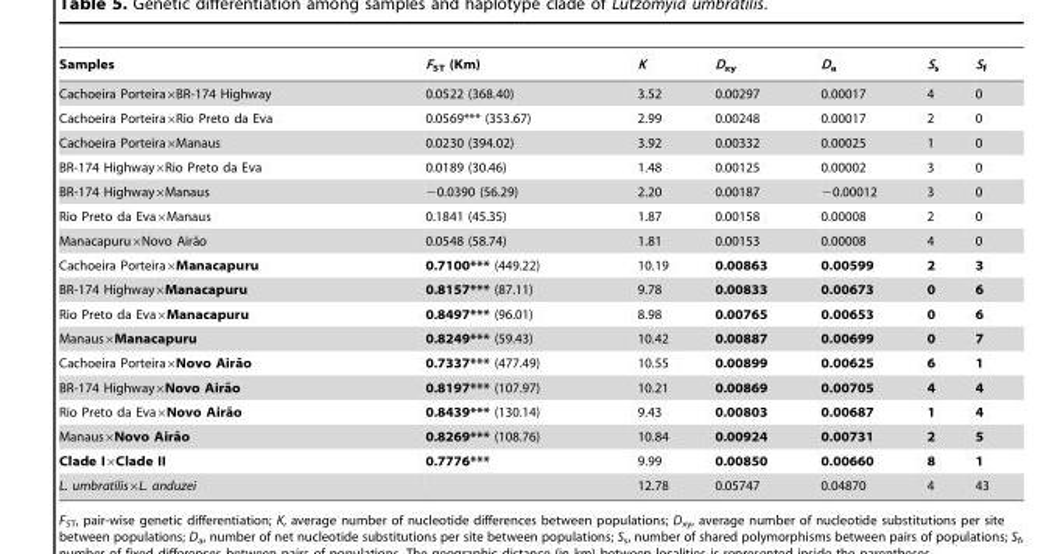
<table><thead><tr><td>Samples</td><td>F<sub>ST</sub> (Km)</td><td>K</td><td>D<sub>xy</sub></td><td>D<sub>a</sub></td><td>S<sub>s</sub></td><td>S<sub>f</sub></td></tr></thead><tbody><tr><td>Cachoeira Porteira×BR-174 Highway</td><td>0.0522 (368.40)</td><td>3.52</td><td>0.00297</td><td>0.00017</td><td>4</td><td>0</td></tr><tr><td>Cachoeira Porteira×Rio Preto da Eva</td><td>0.0569*** (353.67)</td><td>2.99</td><td>0.00248</td><td>0.00017</td><td>2</td><td>0</td></tr><tr><td>Cachoeira Porteira×Manaus</td><td>0.0230 (394.02)</td><td>3.92</td><td>0.00332</td><td>0.00025</td><td>1</td><td>0</td></tr><tr><td>BR-174 Highway×Rio Preto da Eva</td><td>0.0189 (30.46)</td><td>1.48</td><td>0.00125</td><td>0.00002</td><td>3</td><td>0</td></tr><tr><td>BR-174 Highway×Manaus</td><td>−0.0390 (56.29)</td><td>2.20</td><td>0.00187</td><td>−0.00012</td><td>3</td><td>0</td></tr><tr><td>Rio Preto da Eva×Manaus</td><td>0.1841 (45.35)</td><td>1.87</td><td>0.00158</td><td>0.00008</td><td>2</td><td>0</td></tr><tr><td>Manacapuru6Novo Aira˜o</td><td>0.0548 (58.74)</td><td>1.81</td><td>0.00153</td><td>0.00008</td><td>4</td><td>0</td></tr><tr><td>Cachoeira Porteira×Manacapuru</td><td>0.7100*** (449.22)</td><td>10.19</td><td>0.00863</td><td>0.00599</td><td>2</td><td>3</td></tr><tr><td>BR-174 Highway×Manacapuru</td><td>0.8157*** (87.11)</td><td>9.78</td><td>0.00833</td><td>0.00673</td><td>0</td><td>6</td></tr><tr><td>Rio Preto da Eva×Manacapuru</td><td>0.8497*** (96.01)</td><td>8.98</td><td>0.00765</td><td>0.00653</td><td>0</td><td>6</td></tr><tr><td>Manaus×Manacapuru</td><td>0.8249*** (59.43)</td><td>10.42</td><td>0.00887</td><td>0.00699</td><td>0</td><td>7</td></tr><tr><td>Cachoeira Porteira6Novo Aira˜o</td><td>0.7337*** (477.49)</td><td>10.55</td><td>0.00899</td><td>0.00625</td><td>6</td><td>1</td></tr><tr><td>BR-174 Highway6Novo Aira˜o</td><td>0.8197*** (107.97)</td><td>10.21</td><td>0.00869</td><td>0.00705</td><td>4</td><td>4</td></tr><tr><td>Rio Preto da Eva6Novo Aira˜o</td><td>0.8439*** (130.14)</td><td>9.43</td><td>0.00803</td><td>0.00687</td><td>1</td><td>4</td></tr><tr><td>Manaus6Novo Aira˜o</td><td>0.8269*** (108.76)</td><td>10.84</td><td>0.00924</td><td>0.00731</td><td>2</td><td>5</td></tr><tr><td>Clade I×Clade II</td><td>0.7776***</td><td>9.99</td><td>0.00850</td><td>0.00660</td><td>8</td><td>1</td></tr><tr><td>L. umbratilis×L. anduzei</td><td></td><td>12.78</td><td>0.05747</td><td>0.04870</td><td>4</td><td>43</td></tr></tbody></table>